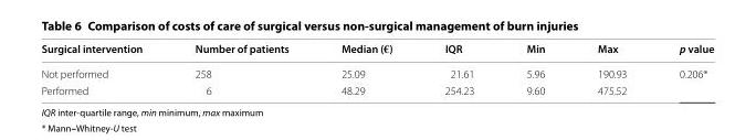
<table><thead><tr><td>Surgical intervention</td><td>Number of patients</td><td>Median (€)</td><td>IQR</td><td>Min</td><td>Max</td><td>p value</td></tr></thead><tbody><tr><td>Not performed</td><td>258</td><td>25.09</td><td>21.61</td><td>5.96</td><td>190.93</td><td rowspan="2">0.206*</td></tr><tr><td>Performed</td><td>6</td><td>48.29</td><td>254.23</td><td>9.60</td><td>475.52</td></tr></tbody></table>